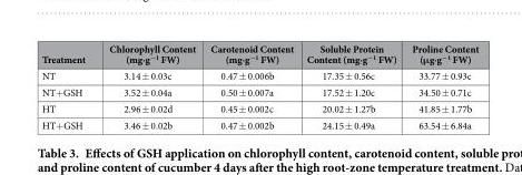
<table><thead><tr><td>Treatment</td><td>Chlorophyll Content (mg·g<sup>−1</sup> FW)</td><td>Carotenoid Content (mg·g<sup>−1</sup> FW)</td><td>Soluble Protein Content (mg·g<sup>−1</sup> FW)</td><td>Proline Content (μg·g<sup>−1</sup> FW)</td></tr></thead><tbody><tr><td>NT</td><td>3.14 ± 0.03c</td><td>0.47 ± 0.006b</td><td>17.35 ± 0.56c</td><td>33.77 ± 0.93c</td></tr><tr><td>NT+ GSH</td><td>3.52 ± 0.04a</td><td>0.50 ± 0.007a</td><td>17.52 ± 1.20c</td><td>34.50 ± 0.71c</td></tr><tr><td>HT</td><td>2.96 ± 0.02d</td><td>0.45 ± 0.002c</td><td>20.02 ± 1.27b</td><td>41.85 ± 1.77b</td></tr><tr><td>HT+ GSH</td><td>3.46 ± 0.02b</td><td>0.47 ± 0.002b</td><td>24.15 ± 0.49a</td><td>63.54 ± 6.84a</td></tr></tbody></table>